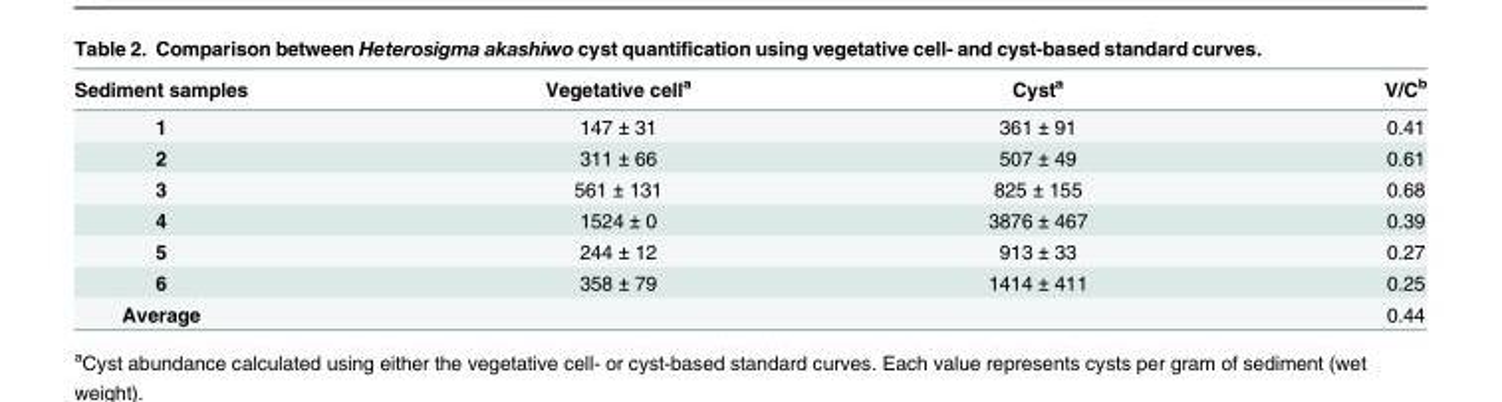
<table><thead><tr><td>Sediment samples</td><td>Vegetative cell<sup>a</sup></td><td>Cyst<sup>a</sup></td><td>V/C<sup>b</sup></td></tr></thead><tbody><tr><td>1</td><td>147 ± 31</td><td>361 ± 91</td><td>0.41</td></tr><tr><td>2</td><td>311 ± 66</td><td>507 ± 49</td><td>0.61</td></tr><tr><td>3</td><td>561 ± 131</td><td>825 ± 155</td><td>0.68</td></tr><tr><td>4</td><td>1524 ± 0</td><td>3876 ± 467</td><td>0.39</td></tr><tr><td>5</td><td>244 ± 12</td><td>913 ± 33</td><td>0.27</td></tr><tr><td>6</td><td>358 ± 79</td><td>1414 ± 411</td><td>0.25</td></tr><tr><td>Average</td><td></td><td></td><td>0.44</td></tr></tbody></table>